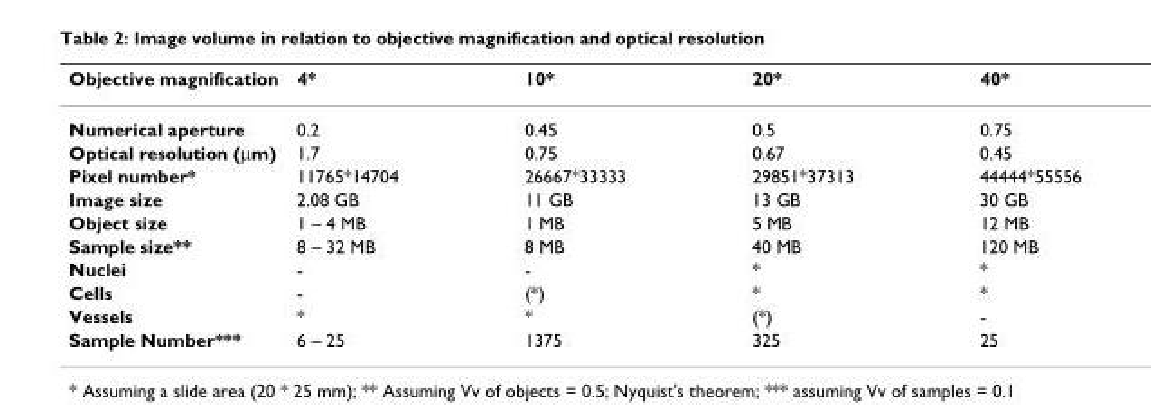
<table><thead><tr><td>Objective magnification</td><td>4*</td><td>10*</td><td>20*</td><td>40*</td></tr></thead><tbody><tr><td>Numerical aperture</td><td>0.2</td><td>0.45</td><td>0.5</td><td>0.75</td></tr><tr><td>Optical resolution (μm)</td><td>1.7</td><td>0.75</td><td>0.67</td><td>0.45</td></tr><tr><td>Pixel number*</td><td>11765*14704</td><td>26667*33333</td><td>29851*37313</td><td>44444*55556</td></tr><tr><td>Image size</td><td>2.08 GB</td><td>11 GB</td><td>13 GB</td><td>30 GB</td></tr><tr><td>Object size</td><td>1 – 4 MB</td><td>1 MB</td><td>5 MB</td><td>12 MB</td></tr><tr><td>Sample size**</td><td>8 – 32 MB</td><td>8 MB</td><td>40 MB</td><td>120 MB</td></tr><tr><td>Nuclei</td><td>-</td><td>-</td><td>*</td><td>*</td></tr><tr><td>Cells</td><td>-</td><td>(*)</td><td>*</td><td>*</td></tr><tr><td>Vessels</td><td>*</td><td>*</td><td>(*)</td><td>-</td></tr><tr><td>Sample Number***</td><td>6 – 25</td><td>1375</td><td>325</td><td>25</td></tr></tbody></table>